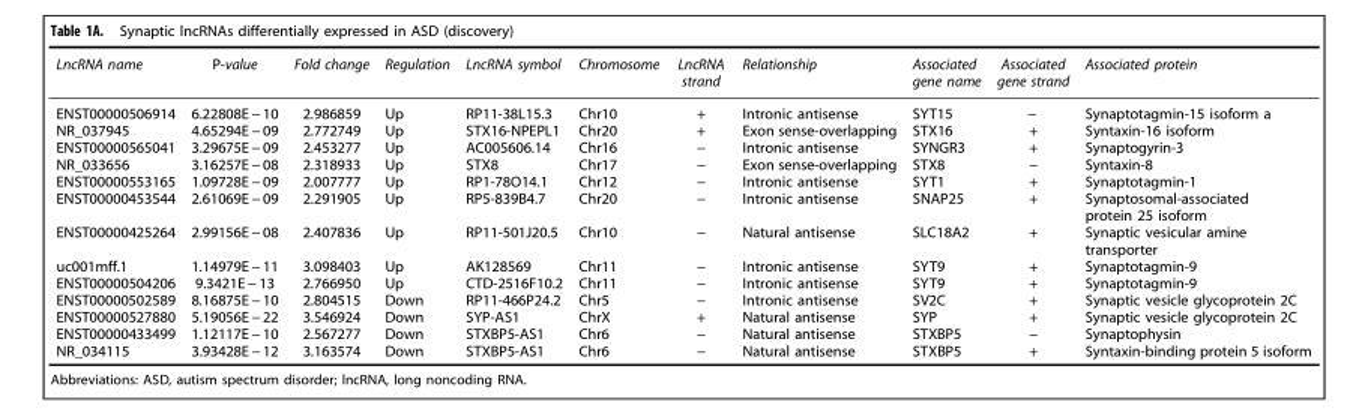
<table><thead><tr><td>LncRNA name</td><td>P-value</td><td>Fold change</td><td>Regulation</td><td>LncRNA symbol</td><td>Chromosome</td><td>LncRNA strand</td><td>Relationship</td><td>Associated gene name</td><td>Associated gene strand</td><td>Associated protein</td></tr></thead><tbody><tr><td>ENST00000506914</td><td>6.22808E − 10</td><td>2.986859</td><td>Up</td><td>RP11-38L15.3</td><td>Chr10</td><td>+</td><td>Intronic antisense</td><td>SYT15</td><td>−</td><td>Synaptotagmin-15 isoform a</td></tr><tr><td>NR_037945</td><td>4.65294E − 09</td><td>2.772749</td><td>Up</td><td>STX16-NPEPL1</td><td>Chr20</td><td>+</td><td>Exon sense-overlapping</td><td>STX16</td><td>+</td><td>Syntaxin-16 isoform</td></tr><tr><td>ENST00000565041</td><td>3.29675E − 09</td><td>2.453277</td><td>Up</td><td>AC005606.14</td><td>Chr16</td><td>−</td><td>Intronic antisense</td><td>SYNGR3</td><td>+</td><td>Synaptogyrin-3</td></tr><tr><td>NR_033656</td><td>3.16257E − 08</td><td>2.318933</td><td>Up</td><td>STX8</td><td>Chr17</td><td>−</td><td>Exon sense-overlapping</td><td>STX8</td><td>−</td><td>Syntaxin-8</td></tr><tr><td>ENST00000553165</td><td>1.09728E − 09</td><td>2.007777</td><td>Up</td><td>RP1-78O14.1</td><td>Chr12</td><td>−</td><td>Intronic antisense</td><td>SYT1</td><td>+</td><td>Synaptotagmin-1</td></tr><tr><td>ENST00000453544</td><td>2.61069E − 09</td><td>2.291905</td><td>Up</td><td>RP5-839B4.7</td><td>Chr20</td><td>−</td><td>Intronic antisense</td><td>SNAP25</td><td>+</td><td>Synaptosomal-associated protein 25 isoform</td></tr><tr><td>ENST00000425264</td><td>2.99156E − 08</td><td>2.407836</td><td>Up</td><td>RP11-501J20.5</td><td>Chr10</td><td>−</td><td>Natural antisense</td><td>SLC18A2</td><td>+</td><td>Synaptic vesicular amine transporter</td></tr><tr><td>uc001mff.1</td><td>1.14979E − 11</td><td>3.098403</td><td>Up</td><td>AK128569</td><td>Chr11</td><td>−</td><td>Intronic antisense</td><td>SYT9</td><td>+</td><td>Synaptotagmin-9</td></tr><tr><td>ENST00000504206</td><td>9.3421E − 13</td><td>2.766950</td><td>Up</td><td>CTD-2516F10.2</td><td>Chr11</td><td>−</td><td>Intronic antisense</td><td>SYT9</td><td>+</td><td>Synaptotagmin-9</td></tr><tr><td>ENST00000502589</td><td>8.16875E − 10</td><td>2.804515</td><td>Down</td><td>RP11-466P24.2</td><td>Chr5</td><td>−</td><td>Intronic antisense</td><td>SV2C</td><td>+</td><td>Synaptic vesicle glycoprotein 2C</td></tr><tr><td>ENST00000527880</td><td>5.19056E − 22</td><td>3.546924</td><td>Down</td><td>SYP-AS1</td><td>ChrX</td><td>+</td><td>Natural antisense</td><td>SYP</td><td>+</td><td>Synaptic vesicle glycoprotein 2C</td></tr><tr><td>ENST00000433499</td><td>1.12117E − 10</td><td>2.567277</td><td>Down</td><td>STXBP5-AS1</td><td>Chr6</td><td>−</td><td>Natural antisense</td><td>STXBP5</td><td>−</td><td>Synaptophysin</td></tr><tr><td>NR_034115</td><td>3.93428E − 12</td><td>3.163574</td><td>Down</td><td>STXBP5-AS1</td><td>Chr6</td><td>−</td><td>Natural antisense</td><td>STXBP5</td><td>+</td><td>Syntaxin-binding protein 5 isoform</td></tr></tbody></table>